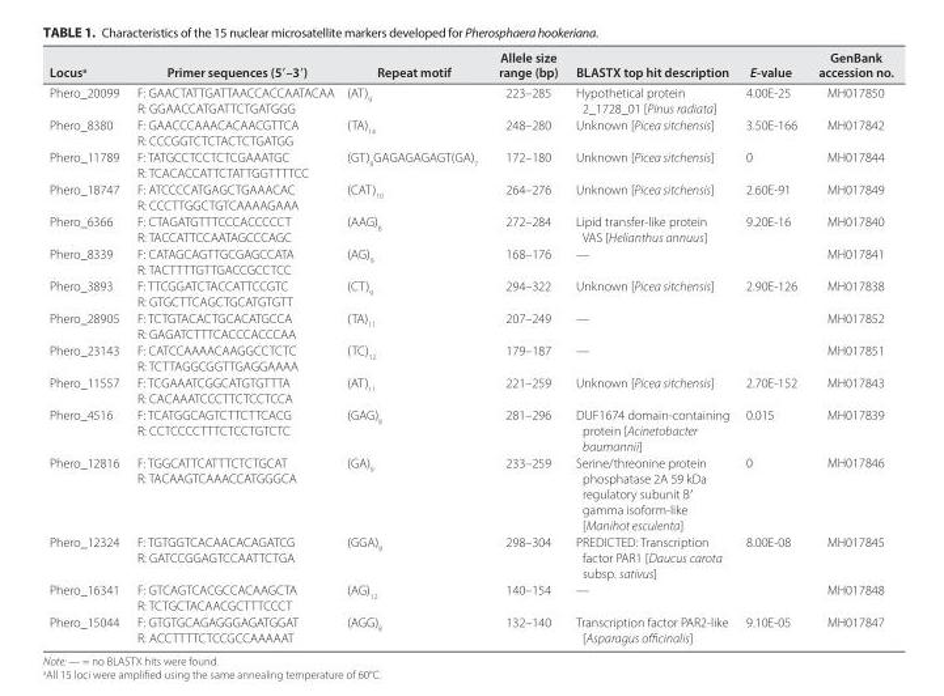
<table><thead><tr><td>Locus<sup>a</sup></td><td>Primer sequences (5′–3′)</td><td>Repeat motif</td><td>Allele size range (bp)</td><td>BLASTX top hit description</td><td>E- value</td><td>GenBank accession no.</td></tr></thead><tbody><tr><td>Phero_20099</td><td>F: GAACTATTGATTAACCACCAATACAA R: GGAACCATGATTCTGATGGG</td><td>(AT)<sub>9</sub></td><td>223–285</td><td>Hypothetical protein 2_1728_01 [Pinus radiata]</td><td>4.00E- 25</td><td>MH017850</td></tr><tr><td>Phero_8380</td><td>F: GAACCCAAACACAACGTTCA R: CCCGGTCTCTACTCTGATGG</td><td>(TA)<sub>14</sub></td><td>248–280</td><td>Unknown [Picea sitchensis]</td><td>3.50E- 166</td><td>MH017842</td></tr><tr><td>Phero_11789</td><td>F: TATGCCTCCTCTCGAAATGC R: TCACACCATTCTATTGGTTTTCC</td><td>(GT)<sub>8</sub>GAGAGAGAGT(GA)<sub>7</sub></td><td>172–180</td><td>Unknown [Picea sitchensis]</td><td>0</td><td>MH017844</td></tr><tr><td>Phero_18747</td><td>F: ATCCCCATGAGCTGAAACAC R: CCCTTGGCTGTCAAAAGAAA</td><td>(CAT)<sub>10</sub></td><td>264–276</td><td>Unknown [Picea sitchensis]</td><td>2.60E- 91</td><td>MH017849</td></tr><tr><td>Phero_6366</td><td>F: CTAGATGTTTCCCACCCCCT R: TACCATTCCAATAGCCCAGC</td><td>(AAG)<sub>8</sub></td><td>272–284</td><td>Lipid transfer- like protein VAS [Helianthus annuus]</td><td>9.20E- 16</td><td>MH017840</td></tr><tr><td>Phero_8339</td><td>F: CATAGCAGTTGCGAGCCATA R: TACTTTTGTTGACCGCCTCC</td><td>(AG)<sub>9</sub></td><td>168–176</td><td>—</td><td></td><td>MH017841</td></tr><tr><td>Phero_3893</td><td>F: TTCGGATCTACCATTCCGTC R: GTGCTTCAGCTGCATGTGTT</td><td>(CT)<sub>9</sub></td><td>294–322</td><td>Unknown [Picea sitchensis]</td><td>2.90E- 126</td><td>MH017838</td></tr><tr><td>Phero_28905</td><td>F: TCTGTACACTGCACATGCCA R: GAGATCTTTCACCCACCCAA</td><td>(TA)<sub>11</sub></td><td>207–249</td><td>—</td><td></td><td>MH017852</td></tr><tr><td>Phero_23143</td><td>F: CATCCAAAACAAGGCCTCTC R: TCTTAGGCGGTTGAGGAAAA</td><td>(TC)<sub>12</sub></td><td>179–187</td><td>—</td><td></td><td>MH017851</td></tr><tr><td>Phero_11557</td><td>F: TCGAAATCGGCATGTGTTTA R: CACAAATCCCTTCTCCTCCA</td><td>(AT)<sub>11</sub></td><td>221–259</td><td>Unknown [Picea sitchensis]</td><td>2.70E- 152</td><td>MH017843</td></tr><tr><td>Phero_4516</td><td>F: TCATGGCAGTCTTCTTCACG R: CCTCCCCTTTCTCCTGTCTC</td><td>(GAG)<sub>8</sub></td><td>281–296</td><td>DUF1674 domain- containing protein [Acinetobacter baumannii]</td><td>0.015</td><td>MH017839</td></tr><tr><td>Phero_12816</td><td>F: TGGCATTCATTTCTCTGCAT R: TACAAGTCAAACCATGGGCA</td><td>(GA)<sub>9</sub></td><td>233–259</td><td>Serine/threonine protein phosphatase 2A 59 kDa regulatory subunit B′ gamma isoform- like [Manihot esculenta]</td><td>0</td><td>MH017846</td></tr><tr><td>Phero_12324</td><td>F: TGTGGTCACAACACAGATCG R: GATCCGGAGTCCAATTCTGA</td><td>(GGA)<sub>8</sub></td><td>298–304</td><td>PREDICTED: Transcription factor PAR1 [Daucus carota subsp. sativus]</td><td>8.00E- 08</td><td>MH017845</td></tr><tr><td>Phero_16341</td><td>F: GTCAGTCACGCCACAAGCTA R: TCTGCTACAACGCTTTCCCT</td><td>(AG)<sub>12</sub></td><td>140–154</td><td>—</td><td></td><td>MH017848</td></tr><tr><td>Phero_15044</td><td>F: GTGTGCAGAGGGAGATGGAT R: ACCTTTTCTCCGCCAAAAAT</td><td>(AGG)<sub>8</sub></td><td>132–140</td><td>Transcription factor PAR2- like [Asparagus officinalis]</td><td>9.10E- 05</td><td>MH017847</td></tr></tbody></table>